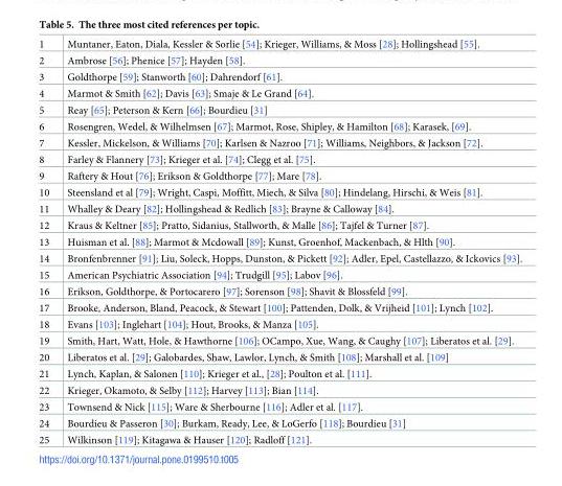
<table><tbody><tr><td>1</td><td>Muntaner, Eaton, Diala, Kessler &amp; Sorlie [54]; Krieger, Williams, &amp; Moss [28]; Hollingshead [55].</td></tr><tr><td>2</td><td>Ambrose [56]; Phenice [57]; Hayden [58].</td></tr><tr><td>3</td><td>Goldthorpe [59]; Stanworth [60]; Dahrendorf [61].</td></tr><tr><td>4</td><td>Marmot &amp; Smith [62]; Davis [63]; Smaje &amp; Le Grand [64].</td></tr><tr><td>5</td><td>Reay [65]; Peterson &amp; Kern [66]; Bourdieu [31]</td></tr><tr><td>6</td><td>Rosengren, Wedel, &amp; Wilhelmsen [67]; Marmot, Rose, Shipley, &amp; Hamilton [68]; Karasek, [69].</td></tr><tr><td>7</td><td>Kessler, Mickelson, &amp; Williams [70]; Karlsen &amp; Nazroo [71]; Williams, Neighbors, &amp; Jackson [72].</td></tr><tr><td>8</td><td>Farley &amp; Flannery [73]; Krieger et al. [74]; Clegg et al. [75].</td></tr><tr><td>9</td><td>Raftery &amp; Hout [76]; Erikson &amp; Goldthorpe [77]; Mare [78].</td></tr><tr><td>10</td><td>Steensland et al [79]; Wright, Caspi, Moffitt, Miech, &amp; Silva [80]; Hindelang, Hirschi, &amp; Weis [81].</td></tr><tr><td>11</td><td>Whalley &amp; Deary [82]; Hollingshead &amp; Redlich [83]; Brayne &amp; Calloway [84].</td></tr><tr><td>12</td><td>Kraus &amp; Keltner [85]; Pratto, Sidanius, Stallworth, &amp; Malle [86]; Tajfel &amp; Turner [87].</td></tr><tr><td>13</td><td>Huisman et al. [88]; Marmot &amp; Mcdowall [89]; Kunst, Groenhof, Mackenbach, &amp; Hlth [90].</td></tr><tr><td>14</td><td>Bronfenbrenner [91]; Liu, Soleck, Hopps, Dunston, &amp; Pickett [92]; Adler, Epel, Castellazzo, &amp; Ickovics [93].</td></tr><tr><td>15</td><td>American Psychiatric Association [94]; Trudgill [95]; Labov [96].</td></tr><tr><td>16</td><td>Erikson, Goldthorpe, &amp; Portocarero [97]; Sorenson [98]; Shavit &amp; Blossfeld [99].</td></tr><tr><td>17</td><td>Brooke, Anderson, Bland, Peacock, &amp; Stewart [100]; Pattenden, Dolk, &amp; Vrijheid [101]; Lynch [102].</td></tr><tr><td>18</td><td>Evans [103]; Inglehart [104]; Hout, Brooks, &amp; Manza [105].</td></tr><tr><td>19</td><td>Smith, Hart, Watt, Hole, &amp; Hawthorne [106]; OCampo, Xue, Wang, &amp; Caughy [107]; Liberatos et al. [29].</td></tr><tr><td>20</td><td>Liberatos et al. [29]; Galobardes, Shaw, Lawlor, Lynch, &amp; Smith [108]; Marshall et al. [109]</td></tr><tr><td>21</td><td>Lynch, Kaplan, &amp; Salonen [110]; Krieger et al., [28]; Poulton et al. [111].</td></tr><tr><td>22</td><td>Krieger, Okamoto, &amp; Selby [112]; Harvey [113]; Bian [114].</td></tr><tr><td>23</td><td>Townsend &amp; Nick [115]; Ware &amp; Sherbourne [116]; Adler et al. [117].</td></tr><tr><td>24</td><td>Bourdieu &amp; Passeron [30]; Burkam, Ready, Lee, &amp; LoGerfo [118]; Bourdieu [31]</td></tr><tr><td>25</td><td>Wilkinson [119]; Kitagawa &amp; Hauser [120]; Radloff [121].</td></tr></tbody></table>